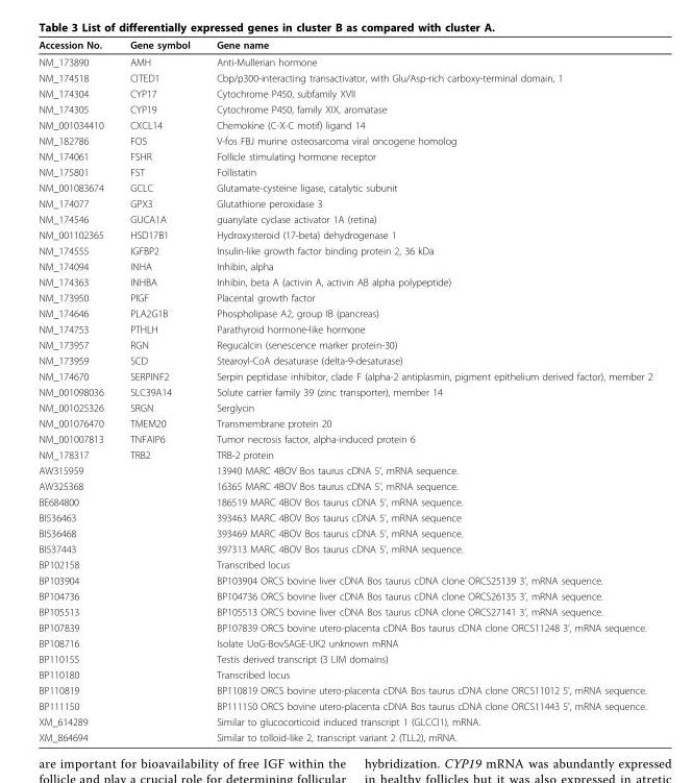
<table><thead><tr><td>Accession No.</td><td>Gene symbol</td><td>Gene name</td></tr></thead><tbody><tr><td>NM_173890</td><td>AMH</td><td>Anti-Mullerian hormone</td></tr><tr><td>NM_174518</td><td>CITED1</td><td>Cbp/p300-interacting transactivator, with Glu/Asp-rich carboxy-terminal domain, 1</td></tr><tr><td>NM_174304</td><td>CYP17</td><td>Cytochrome P450, subfamily XVII</td></tr><tr><td>NM_174305</td><td>CYP19</td><td>Cytochrome P450, family XIX, aromatase</td></tr><tr><td>NM_001034410</td><td>CXCL14</td><td>Chemokine (C-X-C motif) ligand 14</td></tr><tr><td>NM_182786</td><td>FOS</td><td>V-fos FBJ murine osteosarcoma viral oncogene homolog</td></tr><tr><td>NM_174061</td><td>FSHR</td><td>Follicle stimulating hormone receptor</td></tr><tr><td>NM_175801</td><td>FST</td><td>Follistatin</td></tr><tr><td>NM_001083674</td><td>GCLC</td><td>Glutamate-cysteine ligase, catalytic subunit</td></tr><tr><td>NM_174077</td><td>GPX3</td><td>Glutathione peroxidase 3</td></tr><tr><td>NM_174546</td><td>GUCA1A</td><td>guanylate cyclase activator 1A (retina)</td></tr><tr><td>NM_001102365</td><td>HSD17B1</td><td>Hydroxysteroid (17-beta) dehydrogenase 1</td></tr><tr><td>NM_174555</td><td>IGFBP2</td><td>Insulin-like growth factor binding protein 2, 36 kDa</td></tr><tr><td>NM_174094</td><td>INHA</td><td>Inhibin, alpha</td></tr><tr><td>NM_174363</td><td>INHBA</td><td>Inhibin, beta A (activin A, activin AB alpha polypeptide)</td></tr><tr><td>NM_173950</td><td>PlGF</td><td>Placental growth factor</td></tr><tr><td>NM_174646</td><td>PLA2G1B</td><td>Phospholipase A2, group IB (pancreas)</td></tr><tr><td>NM_174753</td><td>PTHLH</td><td>Parathyroid hormone-like hormone</td></tr><tr><td>NM_173957</td><td>RGN</td><td>Regucalcin (senescence marker protein-30)</td></tr><tr><td>NM_173959</td><td>SCD</td><td>Stearoyl-CoA desaturase (delta-9-desaturase)</td></tr><tr><td>NM_174670</td><td>SERPINF2</td><td>Serpin peptidase inhibitor, clade F (alpha-2 antiplasmin, pigment epithelium derived factor), member 2</td></tr><tr><td>NM_001098036</td><td>SLC39A14</td><td>Solute carrier family 39 (zinc transporter), member 14</td></tr><tr><td>NM_001025326</td><td>SRGN</td><td>Serglycin</td></tr><tr><td>NM_001076470</td><td>TMEM20</td><td>Transmembrane protein 20</td></tr><tr><td>NM_001007813</td><td>TNFAIP6</td><td>Tumor necrosis factor, alpha-induced protein 6</td></tr><tr><td>NM_178317</td><td>TRB2</td><td>TRB-2 protein</td></tr><tr><td>AW315959</td><td></td><td>13940 MARC 4BOV Bos taurus cDNA 5’, mRNA sequence.</td></tr><tr><td>AW325368</td><td></td><td>16365 MARC 4BOV Bos taurus cDNA 5’, mRNA sequence.</td></tr><tr><td>BE684800</td><td></td><td>186519 MARC 4BOV Bos taurus cDNA 5’, mRNA sequence.</td></tr><tr><td>BI536463</td><td></td><td>393463 MARC 4BOV Bos taurus cDNA 5’, mRNA sequence</td></tr><tr><td>BI536468</td><td></td><td>393469 MARC 4BOV Bos taurus cDNA 5’, mRNA sequence.</td></tr><tr><td>BI537443</td><td></td><td>397313 MARC 4BOV Bos taurus cDNA 5’, mRNA sequence.</td></tr><tr><td>BP102158</td><td></td><td>Transcribed locus</td></tr><tr><td>BP103904</td><td></td><td>BP103904 ORCS bovine liver cDNA Bos taurus cDNA clone ORCS25139 3’, mRNA sequence.</td></tr><tr><td>BP104736</td><td></td><td>BP104736 ORCS bovine liver cDNA Bos taurus cDNA clone ORCS26135 3’, mRNA sequence.</td></tr><tr><td>BP105513</td><td></td><td>BP105513 ORCS bovine liver cDNA Bos taurus cDNA clone ORCS27141 3’, mRNA sequence.</td></tr><tr><td>BP107839</td><td></td><td>BP107839 ORCS bovine utero-placenta cDNA Bos taurus cDNA clone ORCS11248 3’, mRNA sequence.</td></tr><tr><td>BP108716</td><td></td><td>Isolate UoG-BovSAGE-UK2 unknown mRNA</td></tr><tr><td>BP110155</td><td></td><td>Testis derived transcript (3 LIM domains)</td></tr><tr><td>BP110180</td><td></td><td>Transcribed locus</td></tr><tr><td>BP110819</td><td></td><td>BP110819 ORCS bovine utero-placenta cDNA Bos taurus cDNA clone ORCS11012 5’, mRNA sequence.</td></tr><tr><td>BP111150</td><td></td><td>BP111150 ORCS bovine utero-placenta cDNA Bos taurus cDNA clone ORCS11443 5’, mRNA sequence.</td></tr><tr><td>XM_614289</td><td></td><td>Similar to glucocorticoid induced transcript 1 (GLCCI1), mRNA.</td></tr><tr><td>XM_864694</td><td></td><td>Similar to tolloid-like 2, transcript variant 2 (TLL2), mRNA.</td></tr></tbody></table>